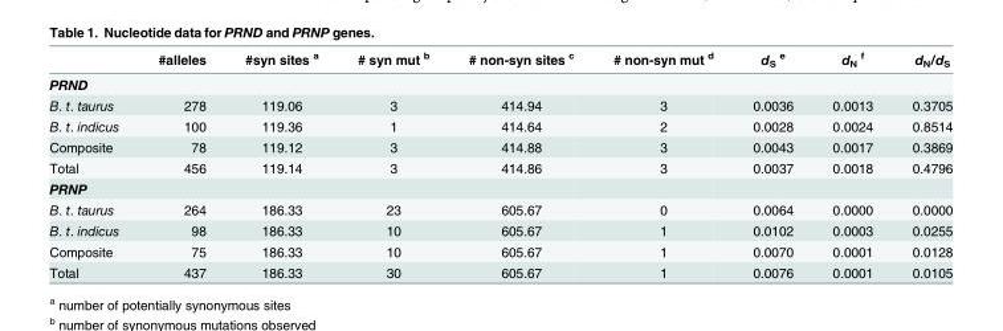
<table><thead><tr><td></td><td>#alleles</td><td>#syn sites <sup>a</sup></td><td># syn mut <sup>b</sup></td><td># non-syn sites <sup>c</sup></td><td># non-syn mut <sup>d</sup></td><td>d<sub>S</sub> <sup>e</sup></td><td>d<sub>N</sub> <sup>f</sup></td><td>d<sub>N</sub>/d<sub>S</sub></td></tr></thead><tbody><tr><td colspan="9">PRND</td></tr><tr><td>B. t. taurus</td><td>278</td><td>119.06</td><td>3</td><td>414.94</td><td>3</td><td>0.0036</td><td>0.0013</td><td>0.3705</td></tr><tr><td>B. t. indicus</td><td>100</td><td>119.36</td><td>1</td><td>414.64</td><td>2</td><td>0.0028</td><td>0.0024</td><td>0.8514</td></tr><tr><td>Composite</td><td>78</td><td>119.12</td><td>3</td><td>414.88</td><td>3</td><td>0.0043</td><td>0.0017</td><td>0.3869</td></tr><tr><td>Total</td><td>456</td><td>119.14</td><td>3</td><td>414.86</td><td>3</td><td>0.0037</td><td>0.0018</td><td>0.4796</td></tr><tr><td colspan="9">PRNP</td></tr><tr><td>B. t. taurus</td><td>264</td><td>186.33</td><td>23</td><td>605.67</td><td>0</td><td>0.0064</td><td>0.0000</td><td>0.0000</td></tr><tr><td>B. t. indicus</td><td>98</td><td>186.33</td><td>10</td><td>605.67</td><td>1</td><td>0.0102</td><td>0.0003</td><td>0.0255</td></tr><tr><td>Composite</td><td>75</td><td>186.33</td><td>10</td><td>605.67</td><td>1</td><td>0.0070</td><td>0.0001</td><td>0.0128</td></tr><tr><td>Total</td><td>437</td><td>186.33</td><td>30</td><td>605.67</td><td>1</td><td>0.0076</td><td>0.0001</td><td>0.0105</td></tr></tbody></table>